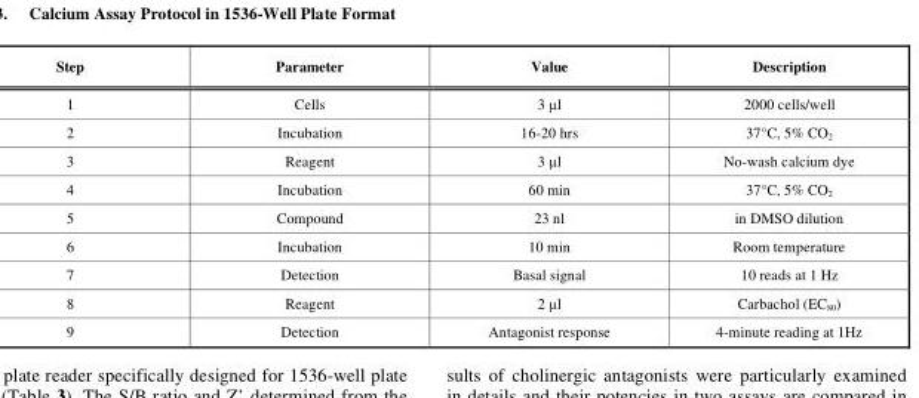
<table><thead><tr><td>Step</td><td>Parameter</td><td>Value</td><td>Description</td></tr></thead><tbody><tr><td>1</td><td>Cells</td><td>3 μl</td><td>2000 cells/well</td></tr><tr><td>2</td><td>Incubation</td><td>16-20 hrs</td><td>37°C, 5% CO<sub>2</sub></td></tr><tr><td>3</td><td>Reagent</td><td>3 μl</td><td>No-wash calcium dye</td></tr><tr><td>4</td><td>Incubation</td><td>60 min</td><td>37°C, 5% CO<sub>2</sub></td></tr><tr><td>5</td><td>Compound</td><td>23 nl</td><td>in DMSO dilution</td></tr><tr><td>6</td><td>Incubation</td><td>10 min</td><td>Room temperature</td></tr><tr><td>7</td><td>Detection</td><td>Basal signal</td><td>10 reads at 1 Hz</td></tr><tr><td>8</td><td>Reagent</td><td>2 μl</td><td>Carbachol (EC<sub>80</sub>)</td></tr><tr><td>9</td><td>Detection</td><td>Antagonist response</td><td>4-minute reading at 1Hz</td></tr></tbody></table>